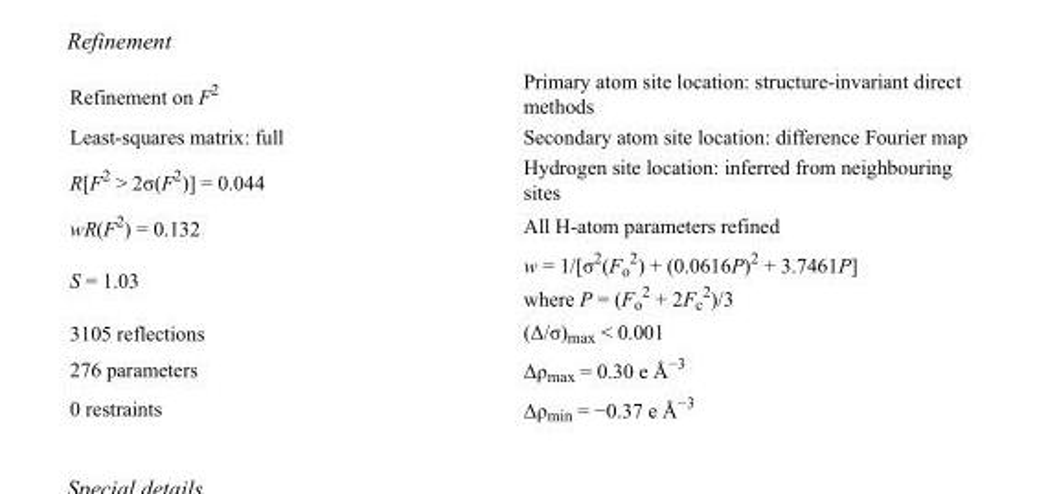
<table><tbody><tr><td>Refinement on F<sup>2</sup></td><td>Primary atom site location: structure-invariant direct methods</td></tr><tr><td>Least-squares matrix: full</td><td>Secondary atom site location: difference Fourier map</td></tr><tr><td>R[F<sup>2</sup> &gt; 2σ(F<sup>2</sup>)] = 0.044</td><td>Hydrogen site location: inferred from neighbouring sites</td></tr><tr><td>wR(F<sup>2</sup>) = 0.132</td><td>All H-atom parameters refined</td></tr><tr><td>S = 1.03</td><td>w = 1/[σ<sup>2</sup>(F<sub>o</sub> <sup>2</sup>) + (0.0616P)<sup>2</sup> + 3.7461P] where P = (F<sub>o</sub> <sup>2</sup> + 2F<sub>c</sub> <sup>2</sup>)/3</td></tr><tr><td>3105 reflections</td><td>(Δ/σ)<sub>max</sub> &lt; 0.001</td></tr><tr><td>276 parameters</td><td>Δρ<sub>max</sub> = 0.30 e Å<sup>−3</sup></td></tr><tr><td>0 restraints</td><td>Δρ<sub>min</sub> = −0.37 e Å<sup>−3</sup></td></tr></tbody></table>